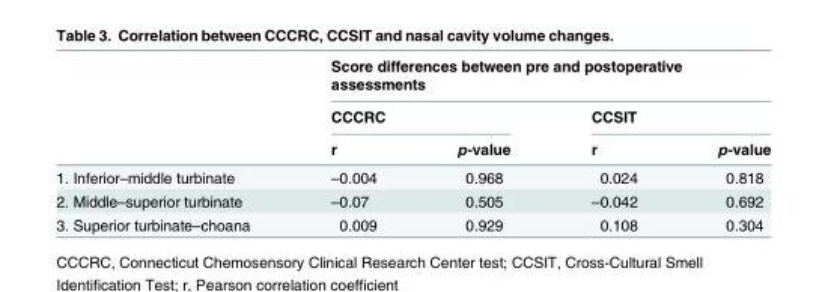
<table><thead><tr><td rowspan="3"></td><td colspan="4">Score differences between pre and postoperative assessments</td></tr><tr><td colspan="2">CCCRC</td><td colspan="2">CCSIT</td></tr><tr><td>r</td><td>p-value</td><td>r</td><td>p-value</td></tr></thead><tbody><tr><td>1. Inferior–middle turbinate</td><td>–0.004</td><td>0.968</td><td>0.024</td><td>0.818</td></tr><tr><td>2. Middle–superior turbinate</td><td>–0.07</td><td>0.505</td><td>–0.042</td><td>0.692</td></tr><tr><td>3. Superior turbinate–choana</td><td>0.009</td><td>0.929</td><td>0.108</td><td>0.304</td></tr></tbody></table>